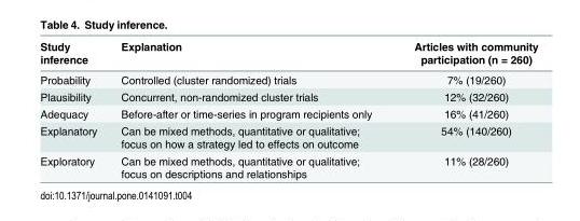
<table><thead><tr><td>Study inference</td><td>Explanation</td><td>Articles with community participation (n = 260)</td></tr></thead><tbody><tr><td>Probability</td><td>Controlled (cluster randomized) trials</td><td>7% (19/260)</td></tr><tr><td>Plausibility</td><td>Concurrent, non-randomized cluster trials</td><td>12% (32/260)</td></tr><tr><td>Adequacy</td><td>Before-after or time-series in program recipients only</td><td>16% (41/260)</td></tr><tr><td>Explanatory</td><td>Can be mixed methods, quantitative or qualitative; focus on how a strategy led to effects on outcome</td><td>54% (140/260)</td></tr><tr><td>Exploratory</td><td>Can be mixed methods, quantitative or qualitative; focus on descriptions and relationships</td><td>11% (28/260)</td></tr></tbody></table>